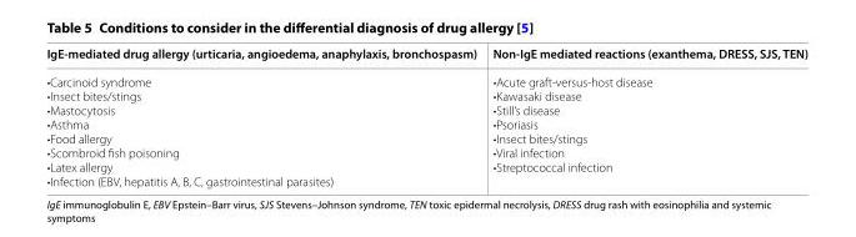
<table><thead><tr><td>IgE-mediated drug allergy (urticaria, angioedema, anaphylaxis, bronchospasm)</td><td>Non-IgE mediated reactions (exanthema, DRESS, SJS, TEN)</td></tr></thead><tbody><tr><td>•Carcinoid syndrome •Insect bites/stings •Mastocytosis •Asthma •Food allergy •Scombroid fish poisoning •Latex allergy •Infection (EBV, hepatitis A, B, C, gastrointestinal parasites)</td><td>•Acute graft‑versus‑host disease •Kawasaki disease •Still’s disease •Psoriasis •Insect bites/stings •Viral infection •Streptococcal infection</td></tr></tbody></table>